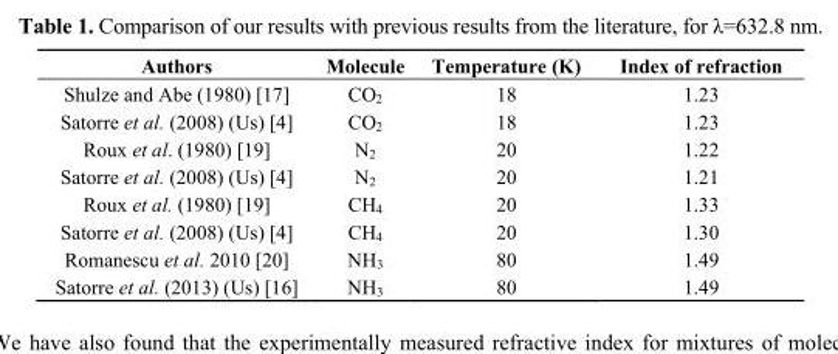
<table><thead><tr><td>Authors</td><td>Molecule</td><td>Temperature (K)</td><td>Index of refraction</td></tr></thead><tbody><tr><td>Shulze and Abe (1980) [17]</td><td>CO<sub>2</sub></td><td>18</td><td>1.23</td></tr><tr><td>Satorre et al. (2008) (Us) [4]</td><td>CO<sub>2</sub></td><td>18</td><td>1.23</td></tr><tr><td>Roux et al. (1980) [19]</td><td>N<sub>2</sub></td><td>20</td><td>1.22</td></tr><tr><td>Satorre et al. (2008) (Us) [4]</td><td>N<sub>2</sub></td><td>20</td><td>1.21</td></tr><tr><td>Roux et al. (1980) [19]</td><td>CH<sub>4</sub></td><td>20</td><td>1.33</td></tr><tr><td>Satorre et al. (2008) (Us) [4]</td><td>CH<sub>4</sub></td><td>20</td><td>1.30</td></tr><tr><td>Romanescu et al. 2010 [20]</td><td>NH<sub>3</sub></td><td>80</td><td>1.49</td></tr><tr><td>Satorre et al. (2013) (Us) [16]</td><td>NH<sub>3</sub></td><td>80</td><td>1.49</td></tr></tbody></table>